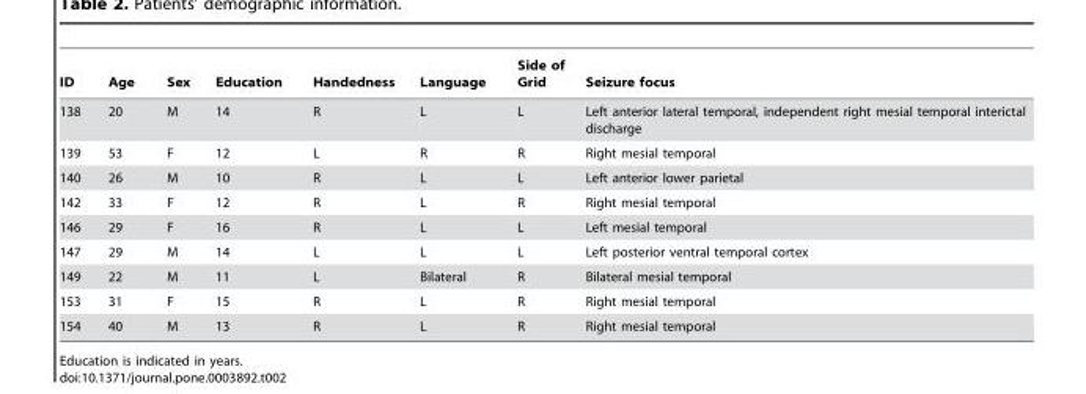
<table><thead><tr><td>ID</td><td>Age</td><td>Sex</td><td>Education</td><td>Handedness</td><td>Language</td><td>Side of Grid</td><td>Seizure focus</td></tr></thead><tbody><tr><td>138</td><td>20</td><td>M</td><td>14</td><td>R</td><td>L</td><td>L</td><td>Left anterior lateral temporal, independent right mesial temporal interictal discharge</td></tr><tr><td>139</td><td>53</td><td>F</td><td>12</td><td>L</td><td>R</td><td>R</td><td>Right mesial temporal</td></tr><tr><td>140</td><td>26</td><td>M</td><td>10</td><td>R</td><td>L</td><td>L</td><td>Left anterior lower parietal</td></tr><tr><td>142</td><td>33</td><td>F</td><td>12</td><td>R</td><td>L</td><td>R</td><td>Right mesial temporal</td></tr><tr><td>146</td><td>29</td><td>F</td><td>16</td><td>R</td><td>L</td><td>L</td><td>Left mesial temporal</td></tr><tr><td>147</td><td>29</td><td>M</td><td>14</td><td>L</td><td>L</td><td>L</td><td>Left posterior ventral temporal cortex</td></tr><tr><td>149</td><td>22</td><td>M</td><td>11</td><td>L</td><td>Bilateral</td><td>R</td><td>Bilateral mesial temporal</td></tr><tr><td>153</td><td>31</td><td>F</td><td>15</td><td>R</td><td>L</td><td>R</td><td>Right mesial temporal</td></tr><tr><td>154</td><td>40</td><td>M</td><td>13</td><td>R</td><td>L</td><td>R</td><td>Right mesial temporal</td></tr></tbody></table>